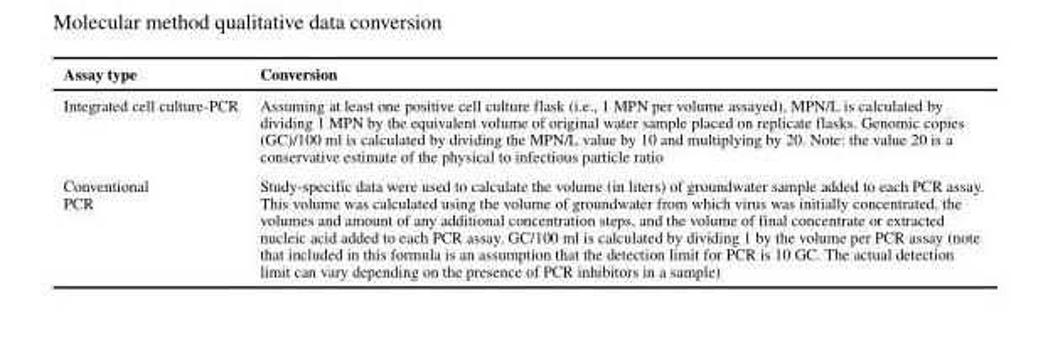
<table><thead><tr><td>Assay type</td><td>Conversion</td></tr></thead><tbody><tr><td>Integrated cell culture-PCR</td><td>Assuming at least one positive cell culture flask (i.e., 1 MPN per volume assayed), MPN/L is calculated by dividing 1 MPN by the equivalent volume of original water sample placed on replicate flasks. Genomic copies (GC)/100 ml is calculated by dividing the MPN/L value by 10 and multiplying by 20. Note: the value 20 is a conservative estimate of the physical to infectious particle ratio</td></tr><tr><td>Conventional PCR</td><td>Study-specific data were used to calculate the volume (in liters) of groundwater sample added to each PCR assay. This volume was calculated using the volume of groundwater from which virus was initially concentrated, the volumes and amount of any additional concentration steps, and the volume of final concentrate or extracted nucleic acid added to each PCR assay. GC/100 ml is calculated by dividing 1 by the volume per PCR assay (note that included in this formula is an assumption that the detection limit for PCR is 10 GC. The actual detection limit can vary depending on the presence of PCR inhibitors in a sample)</td></tr></tbody></table>